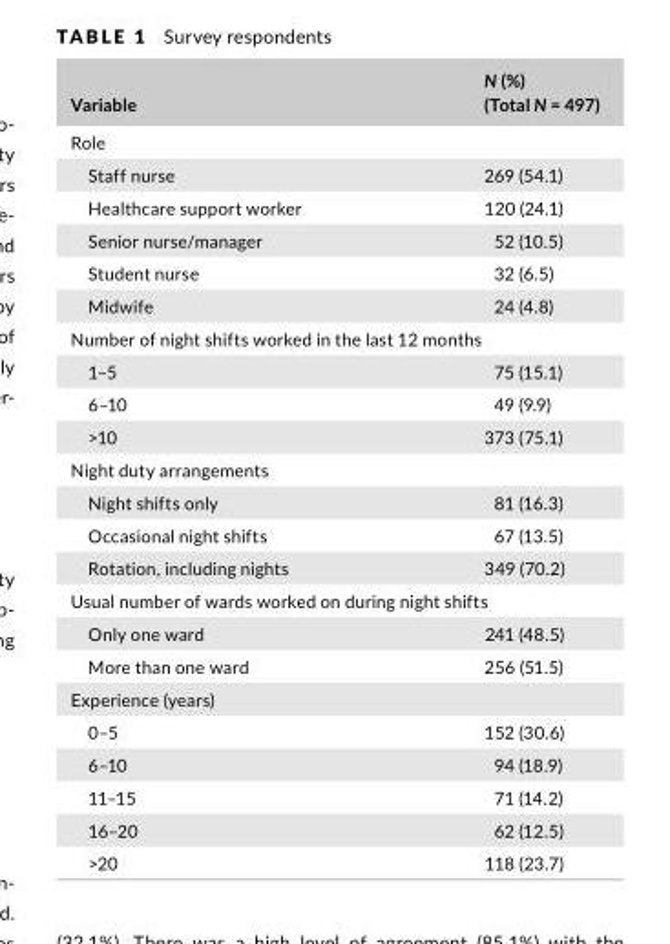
<table><thead><tr><td>Variable</td><td>N (%) (Total N = 497)</td></tr></thead><tbody><tr><td colspan="2">Role</td></tr><tr><td>Staff nurse</td><td>269 (54.1)</td></tr><tr><td>Healthcare support worker</td><td>120 (24.1)</td></tr><tr><td>Senior nurse/manager</td><td>52 (10.5)</td></tr><tr><td>Student nurse</td><td>32 (6.5)</td></tr><tr><td>Midwife</td><td>24 (4.8)</td></tr><tr><td colspan="2">Number of night shifts worked in the last 12 months</td></tr><tr><td>1–5</td><td>75 (15.1)</td></tr><tr><td>6–10</td><td>49 (9.9)</td></tr><tr><td>&gt;10</td><td>373 (75.1)</td></tr><tr><td colspan="2">Night duty arrangements</td></tr><tr><td>Night shifts only</td><td>81 (16.3)</td></tr><tr><td>Occasional night shifts</td><td>67 (13.5)</td></tr><tr><td>Rotation, including nights</td><td>349 (70.2)</td></tr><tr><td colspan="2">Usual number of wards worked on during night shifts</td></tr><tr><td>Only one ward</td><td>241 (48.5)</td></tr><tr><td>More than one ward</td><td>256 (51.5)</td></tr><tr><td colspan="2">Experience (years)</td></tr><tr><td>0–5</td><td>152 (30.6)</td></tr><tr><td>6–10</td><td>94 (18.9)</td></tr><tr><td>11–15</td><td>71 (14.2)</td></tr><tr><td>16–20</td><td>62 (12.5)</td></tr><tr><td>&gt;20</td><td>118 (23.7)</td></tr></tbody></table>